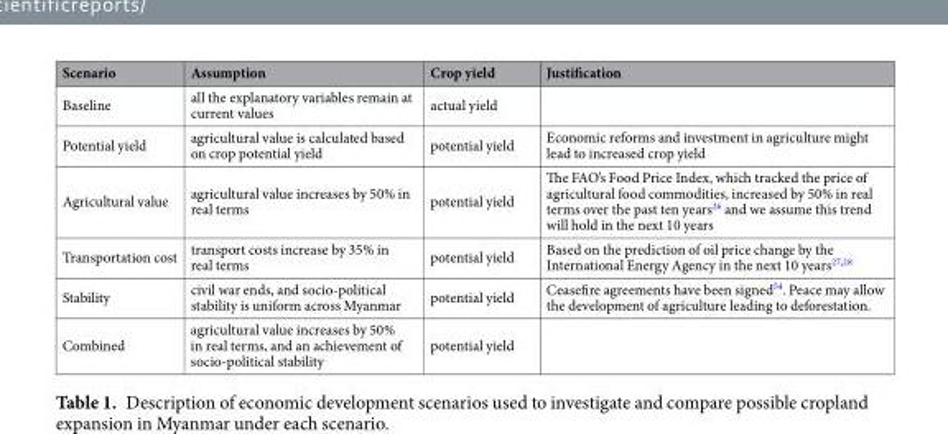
<table><thead><tr><td>Scenario</td><td>Assumption</td><td>Crop yield</td><td>Justification</td></tr></thead><tbody><tr><td>Baseline</td><td>all the explanatory variables remain at current values</td><td>actual yield</td><td></td></tr><tr><td>Potential yield</td><td>agricultural value is calculated based on crop potential yield</td><td>potential yield</td><td>Economic reforms and investment in agriculture might lead to increased crop yield</td></tr><tr><td>Agricultural value</td><td>agricultural value increases by 50% in real terms</td><td>potential yield</td><td>The FAO’s Food Price Index, which tracked the price of agricultural food commodities, increased by 50% in real terms over the past ten years<sup>26</sup> and we assume this trend will hold in the next 10 years</td></tr><tr><td>Transportation cost</td><td>transport costs increase by 35% in real terms</td><td>potential yield</td><td>Based on the prediction of oil price change by the International Energy Agency in the next 10 years<sup>27,28</sup></td></tr><tr><td>Stability</td><td>civil war ends, and socio-political stability is uniform across Myanmar</td><td>potential yield</td><td>Ceasefire agreements have been signed<sup>54</sup>. Peace may allow the development of agriculture leading to deforestation.</td></tr><tr><td>Combined</td><td>agricultural value increases by 50% in real terms, and an achievement of socio-political stability</td><td>potential yield</td><td></td></tr></tbody></table>